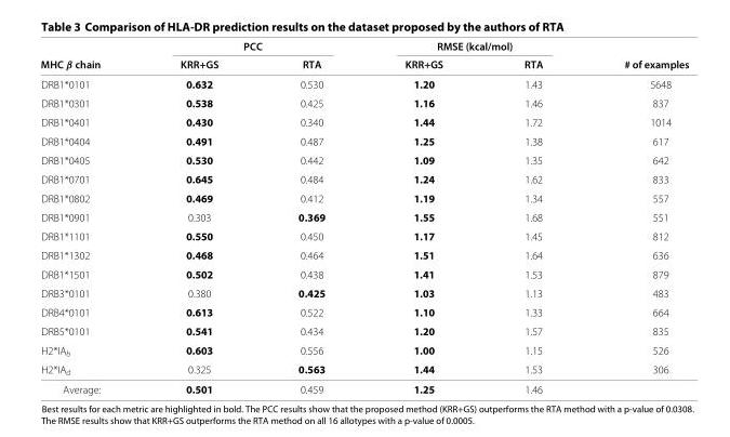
<table><thead><tr><td rowspan="2">MHC β chain</td><td colspan="2">PCC</td><td colspan="2">RMSE (kcal/mol)</td><td rowspan="2"># of examples</td></tr><tr><td>KRR+GS</td><td>RTA</td><td>KRR+GS</td><td>RTA</td></tr></thead><tbody><tr><td>DRB1*0101</td><td>0.632</td><td>0.530</td><td>1.20</td><td>1.43</td><td>5648</td></tr><tr><td>DRB1*0301</td><td>0.538</td><td>0.425</td><td>1.16</td><td>1.46</td><td>837</td></tr><tr><td>DRB1*0401</td><td>0.430</td><td>0.340</td><td>1.44</td><td>1.72</td><td>1014</td></tr><tr><td>DRB1*0404</td><td>0.491</td><td>0.487</td><td>1.25</td><td>1.38</td><td>617</td></tr><tr><td>DRB1*0405</td><td>0.530</td><td>0.442</td><td>1.09</td><td>1.35</td><td>642</td></tr><tr><td>DRB1*0701</td><td>0.645</td><td>0.484</td><td>1.24</td><td>1.62</td><td>833</td></tr><tr><td>DRB1*0802</td><td>0.469</td><td>0.412</td><td>1.19</td><td>1.34</td><td>557</td></tr><tr><td>DRB1*0901</td><td>0.303</td><td>0.369</td><td>1.55</td><td>1.68</td><td>551</td></tr><tr><td>DRB1*1101</td><td>0.550</td><td>0.450</td><td>1.17</td><td>1.45</td><td>812</td></tr><tr><td>DRB1*1302</td><td>0.468</td><td>0.464</td><td>1.51</td><td>1.64</td><td>636</td></tr><tr><td>DRB1*1501</td><td>0.502</td><td>0.438</td><td>1.41</td><td>1.53</td><td>879</td></tr><tr><td>DRB3*0101</td><td>0.380</td><td>0.425</td><td>1.03</td><td>1.13</td><td>483</td></tr><tr><td>DRB4*0101</td><td>0.613</td><td>0.522</td><td>1.10</td><td>1.33</td><td>664</td></tr><tr><td>DRB5*0101</td><td>0.541</td><td>0.434</td><td>1.20</td><td>1.57</td><td>835</td></tr><tr><td>H2*IA<sub>b</sub></td><td>0.603</td><td>0.556</td><td>1.00</td><td>1.15</td><td>526</td></tr><tr><td>H2*IA<sub>d</sub></td><td>0.325</td><td>0.563</td><td>1.44</td><td>1.53</td><td>306</td></tr><tr><td>Average:</td><td>0.501</td><td>0.459</td><td>1.25</td><td>1.46</td><td></td></tr></tbody></table>